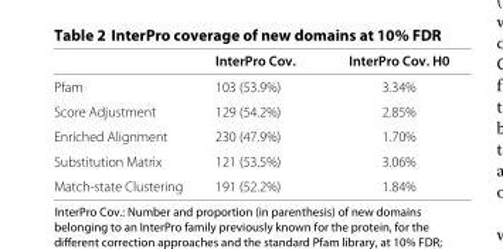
<table><thead><tr><td></td><td>InterPro Cov.</td><td>InterPro Cov. H0</td></tr></thead><tbody><tr><td>Pfam</td><td>103 (53.9%)</td><td>3.34%</td></tr><tr><td>Score Adjustment</td><td>129 (54.2%)</td><td>2.85%</td></tr><tr><td>Enriched Alignment</td><td>230 (47.9%)</td><td>1.70%</td></tr><tr><td>Substitution Matrix</td><td>121 (53.5%)</td><td>3.06%</td></tr><tr><td>Match-state Clustering</td><td>191 (52.2%)</td><td>1.84%</td></tr></tbody></table>